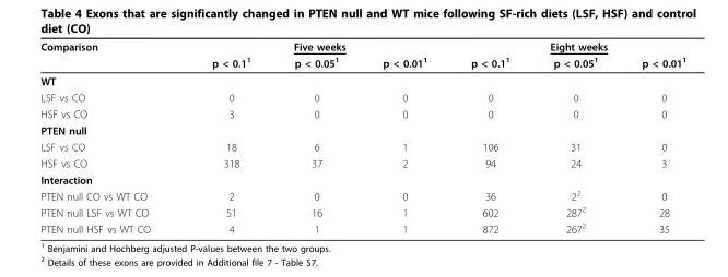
<table><thead><tr><td rowspan="2">Comparison</td><td colspan="3">Five weeks</td><td colspan="3">Eight weeks</td></tr><tr><td>p &lt; 0.1<sup>1</sup></td><td>p &lt; 0.05<sup>1</sup></td><td>p &lt; 0.01<sup>1</sup></td><td>p &lt; 0.1<sup>1</sup></td><td>p &lt; 0.05<sup>1</sup></td><td>p &lt; 0.01<sup>1</sup></td></tr></thead><tbody><tr><td colspan="7">WT</td></tr><tr><td>LSF vs CO</td><td>0</td><td>0</td><td>0</td><td>0</td><td>0</td><td>0</td></tr><tr><td>HSF vs CO</td><td>3</td><td>0</td><td>0</td><td>0</td><td>0</td><td>0</td></tr><tr><td colspan="7">PTEN null</td></tr><tr><td>LSF vs CO</td><td>18</td><td>6</td><td>1</td><td>106</td><td>31</td><td>0</td></tr><tr><td>HSF vs CO</td><td>318</td><td>37</td><td>2</td><td>94</td><td>24</td><td>3</td></tr><tr><td colspan="7">Interaction</td></tr><tr><td>PTEN null CO vs WT CO</td><td>2</td><td>0</td><td>0</td><td>36</td><td>2<sup>2</sup></td><td>0</td></tr><tr><td>PTEN null LSF vs WT CO</td><td>51</td><td>16</td><td>1</td><td>602</td><td>287<sup>2</sup></td><td>28</td></tr><tr><td>PTEN null HSF vs WT CO</td><td>4</td><td>1</td><td>1</td><td>872</td><td>267<sup>2</sup></td><td>35</td></tr></tbody></table>